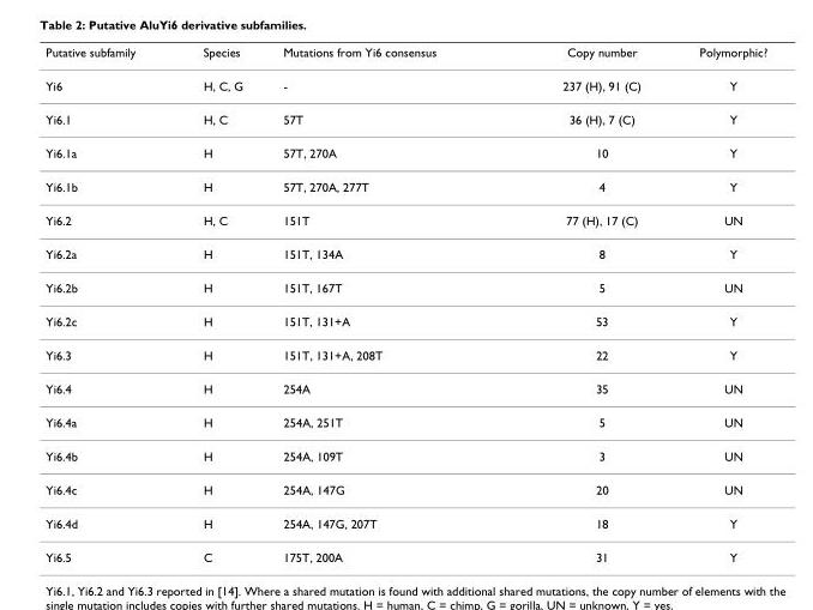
<table><thead><tr><td>Putative subfamily</td><td>Species</td><td>Mutations from Yi6 consensus</td><td>Copy number</td><td>Polymorphic?</td></tr></thead><tbody><tr><td>Yi6</td><td>H, C, G</td><td>-</td><td>237 (H), 91 (C)</td><td>Y</td></tr><tr><td>Yi6.1</td><td>H, C</td><td>57T</td><td>36 (H), 7 (C)</td><td>Y</td></tr><tr><td>Yi6.1a</td><td>H</td><td>57T, 270A</td><td>10</td><td>Y</td></tr><tr><td>Yi6.1b</td><td>H</td><td>57T, 270A, 277T</td><td>4</td><td>Y</td></tr><tr><td>Yi6.2</td><td>H, C</td><td>151T</td><td>77 (H), 17 (C)</td><td>UN</td></tr><tr><td>Yi6.2a</td><td>H</td><td>151T, 134A</td><td>8</td><td>Y</td></tr><tr><td>Yi6.2b</td><td>H</td><td>151T, 167T</td><td>5</td><td>UN</td></tr><tr><td>Yi6.2c</td><td>H</td><td>151T, 131+A</td><td>53</td><td>Y</td></tr><tr><td>Yi6.3</td><td>H</td><td>151T, 131+A, 208T</td><td>22</td><td>Y</td></tr><tr><td>Yi6.4</td><td>H</td><td>254A</td><td>35</td><td>UN</td></tr><tr><td>Yi6.4a</td><td>H</td><td>254A, 251T</td><td>5</td><td>UN</td></tr><tr><td>Yi6.4b</td><td>H</td><td>254A, 109T</td><td>3</td><td>UN</td></tr><tr><td>Yi6.4c</td><td>H</td><td>254A, 147G</td><td>20</td><td>UN</td></tr><tr><td>Yi6.4d</td><td>H</td><td>254A, 147G, 207T</td><td>18</td><td>Y</td></tr><tr><td>Yi6.5</td><td>C</td><td>175T, 200A</td><td>31</td><td>Y</td></tr></tbody></table>